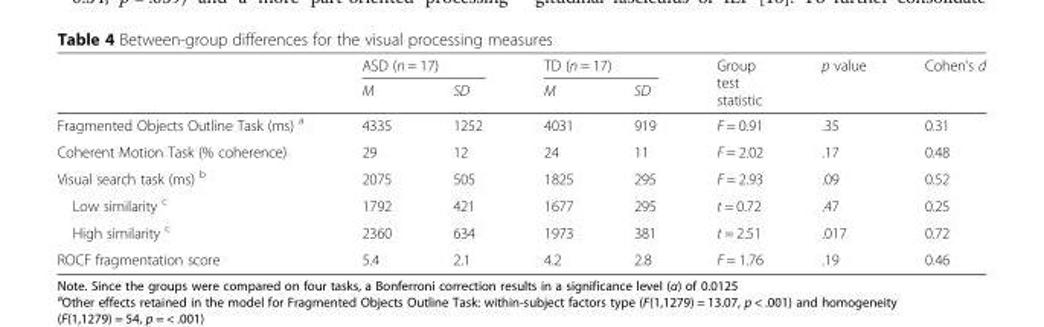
<table><thead><tr><td rowspan="2"></td><td colspan="2">ASD (n = 17)</td><td colspan="2">TD (n = 17)</td><td rowspan="2">Group test statistic</td><td rowspan="2">p value</td><td rowspan="2">Cohen’s d</td></tr><tr><td>M</td><td>SD</td><td>M</td><td>SD</td></tr></thead><tbody><tr><td>Fragmented Objects Outline Task (ms) <sup>a</sup></td><td>4335</td><td>1252</td><td>4031</td><td>919</td><td>F = 0.91</td><td>.35</td><td>0.31</td></tr><tr><td>Coherent Motion Task (% coherence)</td><td>29</td><td>12</td><td>24</td><td>11</td><td>F = 2.02</td><td>.17</td><td>0.48</td></tr><tr><td>Visual search task (ms) <sup>b</sup></td><td>2075</td><td>505</td><td>1825</td><td>295</td><td>F = 2.93</td><td>.09</td><td>0.52</td></tr><tr><td>Low similarity <sup>c</sup></td><td>1792</td><td>421</td><td>1677</td><td>295</td><td>t = 0.72</td><td>.47</td><td>0.25</td></tr><tr><td>High similarity <sup>c</sup></td><td>2360</td><td>634</td><td>1973</td><td>381</td><td>t = 2.51</td><td>.017</td><td>0.72</td></tr><tr><td>ROCF fragmentation score</td><td>5.4</td><td>2.1</td><td>4.2</td><td>2.8</td><td>F = 1.76</td><td>.19</td><td>0.46</td></tr></tbody></table>